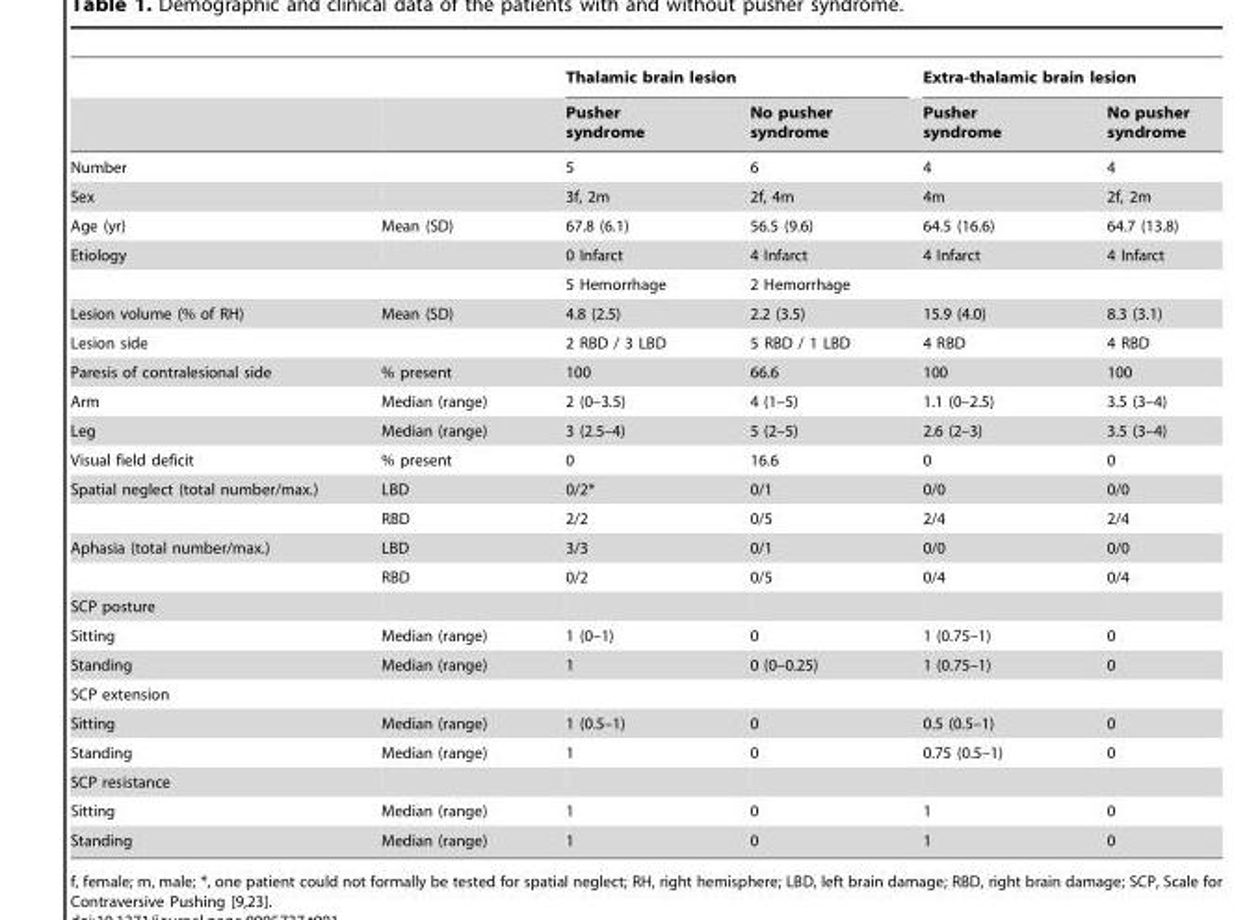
<table><thead><tr><td rowspan="2"></td><td rowspan="2"></td><td colspan="2">Thalamic brain lesion</td><td colspan="2">Extra-thalamic brain lesion</td></tr><tr><td>Pusher syndrome</td><td>No pusher syndrome</td><td>Pusher syndrome</td><td>No pusher syndrome</td></tr></thead><tbody><tr><td>Number</td><td></td><td>5</td><td>6</td><td>4</td><td>4</td></tr><tr><td>Sex</td><td></td><td>3f, 2m</td><td>2f, 4m</td><td>4m</td><td>2f, 2m</td></tr><tr><td>Age (yr)</td><td>Mean (SD)</td><td>67.8 (6.1)</td><td>56.5 (9.6)</td><td>64.5 (16.6)</td><td>64.7 (13.8)</td></tr><tr><td rowspan="2">Etiology</td><td></td><td>0 Infarct</td><td>4 Infarct</td><td>4 Infarct</td><td>4 Infarct</td></tr><tr><td></td><td>5 Hemorrhage</td><td>2 Hemorrhage</td><td></td><td></td></tr><tr><td>Lesion volume (% of RH)</td><td>Mean (SD)</td><td>4.8 (2.5)</td><td>2.2 (3.5)</td><td>15.9 (4.0)</td><td>8.3 (3.1)</td></tr><tr><td>Lesion side</td><td></td><td>2 RBD / 3 LBD</td><td>5 RBD / 1 LBD</td><td>4 RBD</td><td>4 RBD</td></tr><tr><td>Paresis of contralesional side</td><td>% present</td><td>100</td><td>66.6</td><td>100</td><td>100</td></tr><tr><td>Arm</td><td>Median (range)</td><td>2 (0–3.5)</td><td>4 (1–5)</td><td>1.1 (0–2.5)</td><td>3.5 (3–4)</td></tr><tr><td>Leg</td><td>Median (range)</td><td>3 (2.5–4)</td><td>5 (2–5)</td><td>2.6 (2–3)</td><td>3.5 (3–4)</td></tr><tr><td>Visual field deficit</td><td>% present</td><td>0</td><td>16.6</td><td>0</td><td>0</td></tr><tr><td rowspan="2">Spatial neglect (total number/max.)</td><td>LBD</td><td>0/2*</td><td>0/1</td><td>0/0</td><td>0/0</td></tr><tr><td>RBD</td><td>2/2</td><td>0/5</td><td>2/4</td><td>2/4</td></tr><tr><td rowspan="2">Aphasia (total number/max.)</td><td>LBD</td><td>3/3</td><td>0/1</td><td>0/0</td><td>0/0</td></tr><tr><td>RBD</td><td>0/2</td><td>0/5</td><td>0/4</td><td>0/4</td></tr><tr><td colspan="6">SCP posture</td></tr><tr><td>Sitting</td><td>Median (range)</td><td>1 (0–1)</td><td>0</td><td>1 (0.75–1)</td><td>0</td></tr><tr><td>Standing</td><td>Median (range)</td><td>1</td><td>0 (0–0.25)</td><td>1 (0.75–1)</td><td>0</td></tr><tr><td colspan="6">SCP extension</td></tr><tr><td>Sitting</td><td>Median (range)</td><td>1 (0.5–1)</td><td>0</td><td>0.5 (0.5–1)</td><td>0</td></tr><tr><td>Standing</td><td>Median (range)</td><td>1</td><td>0</td><td>0.75 (0.5–1)</td><td>0</td></tr><tr><td colspan="6">SCP resistance</td></tr><tr><td>Sitting</td><td>Median (range)</td><td>1</td><td>0</td><td>1</td><td>0</td></tr><tr><td>Standing</td><td>Median (range)</td><td>1</td><td>0</td><td>1</td><td>0</td></tr></tbody></table>